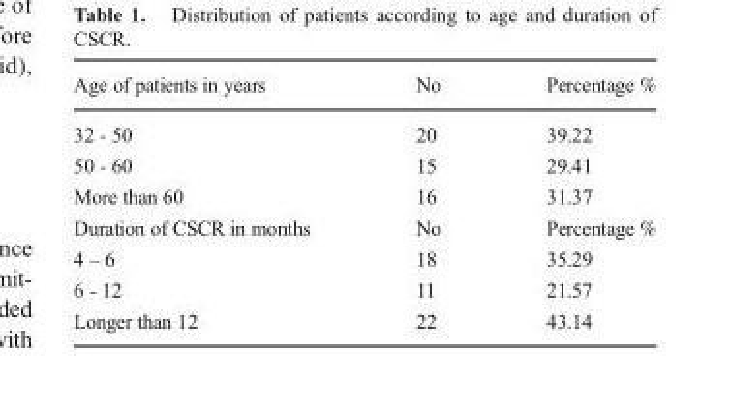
<table><thead><tr><td>Age of patients in years</td><td>No</td><td>Percentage %</td></tr></thead><tbody><tr><td>32 - 50</td><td>20</td><td>39.22</td></tr><tr><td>50 - 60</td><td>15</td><td>29.41</td></tr><tr><td>More than 60</td><td>16</td><td>31.37</td></tr><tr><td>Duration of CSCR in months</td><td>No</td><td>Percentage %</td></tr><tr><td>4 – 6</td><td>18</td><td>35.29</td></tr><tr><td>6 - 12</td><td>11</td><td>21.57</td></tr><tr><td>Longer than 12</td><td>22</td><td>43.14</td></tr></tbody></table>